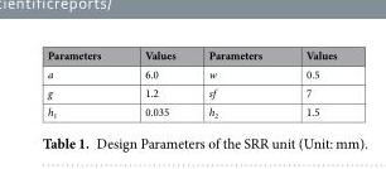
<table><thead><tr><td>Parameters</td><td>Values</td><td>Parameters</td><td>Values</td></tr></thead><tbody><tr><td>a</td><td>6.0</td><td>w</td><td>0.5</td></tr><tr><td>g</td><td>1.2</td><td>sf</td><td>7</td></tr><tr><td>h<sub>1</sub></td><td>0.035</td><td>h<sub>2</sub></td><td>1.5</td></tr></tbody></table>